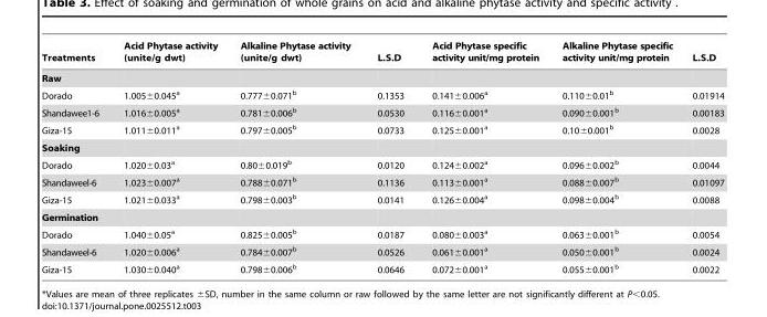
<table><thead><tr><td>Treatments</td><td>Acid Phytase activity (unite/g dwt)</td><td>Alkaline Phytase activity (unite/g dwt)</td><td>L.S.D</td><td>Acid Phytase specific activity unit/mg protein</td><td>Alkaline Phytase specific activity unit/mg protein</td><td>L.S.D</td></tr></thead><tbody><tr><td colspan="7">Raw</td></tr><tr><td>Dorado</td><td>1.005±0.045<sup>a</sup></td><td>0.777±0.071<sup>b</sup></td><td>0.1353</td><td>0.141±0.006<sup>a</sup></td><td>0.110±0.01<sup>b</sup></td><td>0.01914</td></tr><tr><td>Shandawee1-6</td><td>1.016±0.005<sup>a</sup></td><td>0.781±0.006<sup>b</sup></td><td>0.0530</td><td>0.116±0.001<sup>a</sup></td><td>0.090±0.001<sup>b</sup></td><td>0.00183</td></tr><tr><td>Giza-15</td><td>1.011±0.011<sup>a</sup></td><td>0.797±0.005<sup>b</sup></td><td>0.0733</td><td>0.125±0.001<sup>a</sup></td><td>0.10±0.001<sup>b</sup></td><td>0.0028</td></tr><tr><td colspan="7">Soaking</td></tr><tr><td>Dorado</td><td>1.020±0.03<sup>a</sup></td><td>0.80±0.019<sup>b</sup></td><td>0.0120</td><td>0.124±0.002<sup>a</sup></td><td>0.096±0.002<sup>b</sup></td><td>0.0044</td></tr><tr><td>Shandaweel-6</td><td>1.023±0.007<sup>a</sup></td><td>0.788±0.071<sup>b</sup></td><td>0.1136</td><td>0.113±0.001<sup>a</sup></td><td>0.088±0.007<sup>b</sup></td><td>0.01097</td></tr><tr><td>Giza-15</td><td>1.021±0.033<sup>a</sup></td><td>0.798±0.003<sup>b</sup></td><td>0.0141</td><td>0.126±0.004<sup>a</sup></td><td>0.098±0.004<sup>b</sup></td><td>0.0088</td></tr><tr><td colspan="7">Germination</td></tr><tr><td>Dorado</td><td>1.040±0.05<sup>a</sup></td><td>0.825±0.005<sup>b</sup></td><td>0.0187</td><td>0.080±0.003<sup>a</sup></td><td>0.063±0.001<sup>b</sup></td><td>0.0054</td></tr><tr><td>Shandaweel-6</td><td>1.020±0.006<sup>a</sup></td><td>0.784±0.007<sup>b</sup></td><td>0.0526</td><td>0.061±0.001<sup>a</sup></td><td>0.050±0.001<sup>b</sup></td><td>0.0024</td></tr><tr><td>Giza-15</td><td>1.030±0.040<sup>a</sup></td><td>0.798±0.006<sup>b</sup></td><td>0.0646</td><td>0.072±0.001<sup>a</sup></td><td>0.055±0.001<sup>b</sup></td><td>0.0022</td></tr></tbody></table>